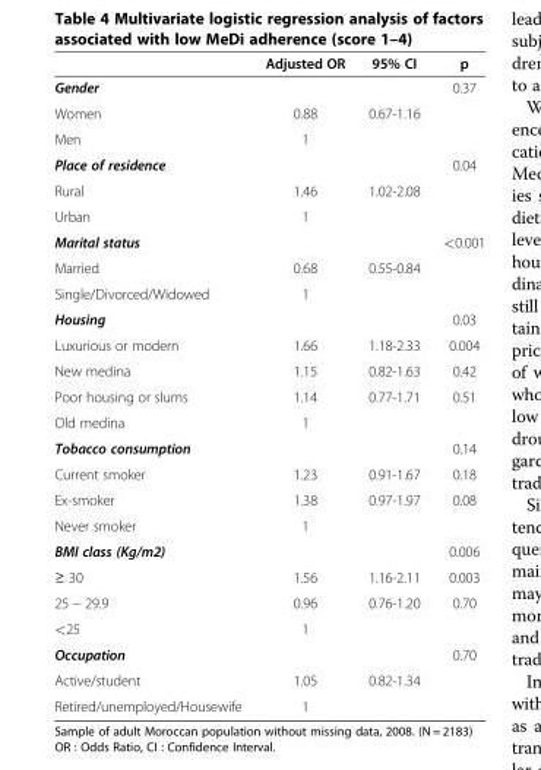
<table><thead><tr><td></td><td>Adjusted OR</td><td>95% CI</td><td>p</td></tr></thead><tbody><tr><td>Gender</td><td></td><td></td><td>0.37</td></tr><tr><td>Women</td><td>0.88</td><td>0.67-1.16</td><td></td></tr><tr><td>Men</td><td>1</td><td></td><td></td></tr><tr><td>Place of residence</td><td></td><td></td><td>0.04</td></tr><tr><td>Rural</td><td>1.46</td><td>1.02-2.08</td><td></td></tr><tr><td>Urban</td><td>1</td><td></td><td></td></tr><tr><td>Marital status</td><td></td><td></td><td>&lt;0.001</td></tr><tr><td>Married</td><td>0.68</td><td>0.55-0.84</td><td></td></tr><tr><td>Single/Divorced/Widowed</td><td>1</td><td></td><td></td></tr><tr><td>Housing</td><td></td><td></td><td>0.03</td></tr><tr><td>Luxurious or modern</td><td>1.66</td><td>1.18-2.33</td><td>0.004</td></tr><tr><td>New medina</td><td>1.15</td><td>0.82-1.63</td><td>0.42</td></tr><tr><td>Poor housing or slums</td><td>1.14</td><td>0.77-1.71</td><td>0.51</td></tr><tr><td>Old medina</td><td>1</td><td></td><td></td></tr><tr><td>Tobacco consumption</td><td></td><td></td><td>0.14</td></tr><tr><td>Current smoker</td><td>1.23</td><td>0.91-1.67</td><td>0.18</td></tr><tr><td>Ex-smoker</td><td>1.38</td><td>0.97-1.97</td><td>0.08</td></tr><tr><td>Never smoker</td><td>1</td><td></td><td></td></tr><tr><td>BMI class (Kg/m2)</td><td></td><td></td><td>0.006</td></tr><tr><td>≥ 30</td><td>1.56</td><td>1.16-2.11</td><td>0.003</td></tr><tr><td>25 – 29.9</td><td>0.96</td><td>0.76-1.20</td><td>0.70</td></tr><tr><td>&lt;25</td><td>1</td><td></td><td></td></tr><tr><td>Occupation</td><td></td><td></td><td>0.70</td></tr><tr><td>Active/student</td><td>1.05</td><td>0.82-1.34</td><td></td></tr><tr><td>Retired/unemployed/Housewife</td><td>1</td><td></td><td></td></tr></tbody></table>